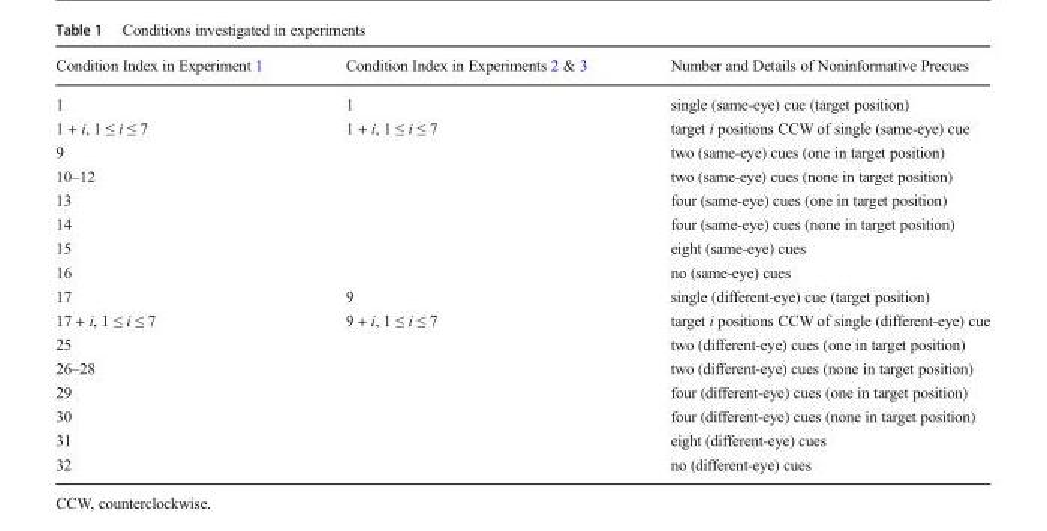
<table><thead><tr><td>Condition Index in Experiment 1</td><td>Condition Index in Experiments 2 &amp; 3</td><td>Number and Details of Noninformative Precues</td></tr></thead><tbody><tr><td>1</td><td>1</td><td>single (same-eye) cue (target position)</td></tr><tr><td>1 + i, 1 ≤ i ≤ 7</td><td>1 + i, 1 ≤ i ≤ 7</td><td>target i positions CCW of single (same-eye) cue</td></tr><tr><td>9</td><td></td><td>two (same-eye) cues (one in target position)</td></tr><tr><td>10–12</td><td></td><td>two (same-eye) cues (none in target position)</td></tr><tr><td>13</td><td></td><td>four (same-eye) cues (one in target position)</td></tr><tr><td>14</td><td></td><td>four (same-eye) cues (none in target position)</td></tr><tr><td>15</td><td></td><td>eight (same-eye) cues</td></tr><tr><td>16</td><td></td><td>no (same-eye) cues</td></tr><tr><td>17</td><td>9</td><td>single (different-eye) cue (target position)</td></tr><tr><td>17 + i, 1 ≤ i ≤ 7</td><td>9 + i, 1 ≤ i ≤ 7</td><td>target i positions CCW of single (different-eye) cue</td></tr><tr><td>25</td><td></td><td>two (different-eye) cues (one in target position)</td></tr><tr><td>26–28</td><td></td><td>two (different-eye) cues (none in target position)</td></tr><tr><td>29</td><td></td><td>four (different-eye) cues (one in target position)</td></tr><tr><td>30</td><td></td><td>four (different-eye) cues (none in target position)</td></tr><tr><td>31</td><td></td><td>eight (different-eye) cues</td></tr><tr><td>32</td><td></td><td>no (different-eye) cues</td></tr></tbody></table>